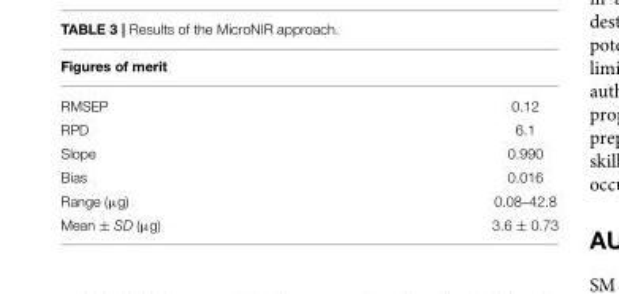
<table><thead><tr><td>Figures of merit</td><td></td></tr></thead><tbody><tr><td>RMSEP</td><td>0.12</td></tr><tr><td>RPD</td><td>6.1</td></tr><tr><td>Slope</td><td>0.990</td></tr><tr><td>Bias</td><td>0.016</td></tr><tr><td>Range (µg)</td><td>0.08–42.8</td></tr><tr><td>Mean ± SD (µg)</td><td>3.6 ± 0.73</td></tr></tbody></table>